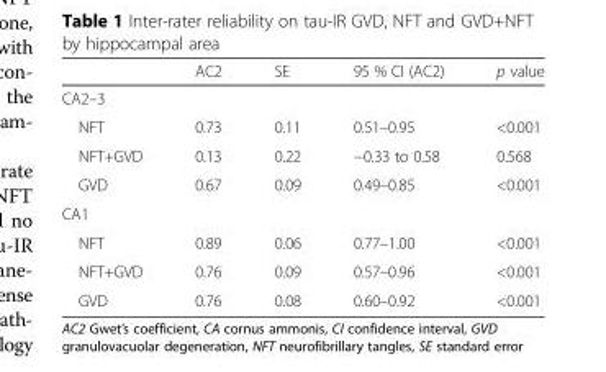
<table><thead><tr><td></td><td>AC2</td><td>SE</td><td>95 % CI (AC2)</td><td>p value</td></tr></thead><tbody><tr><td colspan="5">CA2–3</td></tr><tr><td>NFT</td><td>0.73</td><td>0.11</td><td>0.51–0.95</td><td>&lt;0.001</td></tr><tr><td>NFT+GVD</td><td>0.13</td><td>0.22</td><td>−0.33 to 0.58</td><td>0.568</td></tr><tr><td>GVD</td><td>0.67</td><td>0.09</td><td>0.49–0.85</td><td>&lt;0.001</td></tr><tr><td colspan="5">CA1</td></tr><tr><td>NFT</td><td>0.89</td><td>0.06</td><td>0.77–1.00</td><td>&lt;0.001</td></tr><tr><td>NFT+GVD</td><td>0.76</td><td>0.09</td><td>0.57–0.96</td><td>&lt;0.001</td></tr><tr><td>GVD</td><td>0.76</td><td>0.08</td><td>0.60–0.92</td><td>&lt;0.001</td></tr></tbody></table>